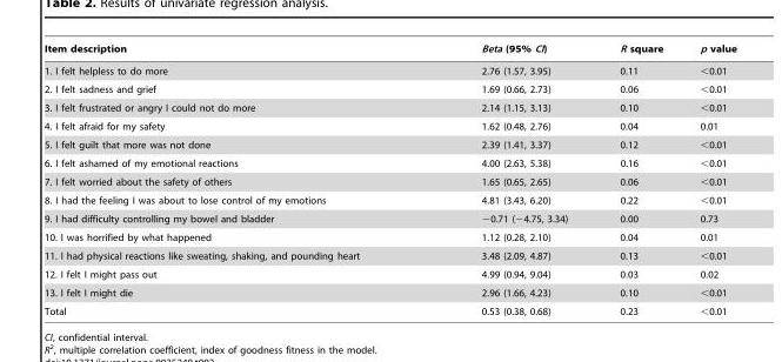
<table><thead><tr><td>Item description</td><td>Beta (95% CI)</td><td>R square</td><td>p value</td></tr></thead><tbody><tr><td>1. I felt helpless to do more</td><td>2.76 (1.57, 3.95)</td><td>0.11</td><td>&lt;0.01</td></tr><tr><td>2. I felt sadness and grief</td><td>1.69 (0.66, 2.73)</td><td>0.06</td><td>&lt;0.01</td></tr><tr><td>3. I felt frustrated or angry I could not do more</td><td>2.14 (1.15, 3.13)</td><td>0.10</td><td>&lt;0.01</td></tr><tr><td>4. I felt afraid for my safety</td><td>1.62 (0.48, 2.76)</td><td>0.04</td><td>0.01</td></tr><tr><td>5. I felt guilt that more was not done</td><td>2.39 (1.41, 3.37)</td><td>0.12</td><td>&lt;0.01</td></tr><tr><td>6. I felt ashamed of my emotional reactions</td><td>4.00 (2.63, 5.38)</td><td>0.16</td><td>&lt;0.01</td></tr><tr><td>7. I felt worried about the safety of others</td><td>1.65 (0.65, 2.65)</td><td>0.06</td><td>&lt;0.01</td></tr><tr><td>8. I had the feeling I was about to lose control of my emotions</td><td>4.81 (3.43, 6.20)</td><td>0.22</td><td>&lt;0.01</td></tr><tr><td>9. I had difficulty controlling my bowel and bladder</td><td>−0.71 (−4.75, 3.34)</td><td>0.00</td><td>0.73</td></tr><tr><td>10. I was horrified by what happened</td><td>1.12 (0.28, 2.10)</td><td>0.04</td><td>0.01</td></tr><tr><td>11. I had physical reactions like sweating, shaking, and pounding heart</td><td>3.48 (2.09, 4.87)</td><td>0.13</td><td>&lt;0.01</td></tr><tr><td>12. I felt I might pass out</td><td>4.99 (0.94, 9.04)</td><td>0.03</td><td>0.02</td></tr><tr><td>13. I felt I might die</td><td>2.96 (1.66, 4.23)</td><td>0.10</td><td>&lt;0.01</td></tr><tr><td>Total</td><td>0.53 (0.38, 0.68)</td><td>0.23</td><td>&lt;0.01</td></tr></tbody></table>